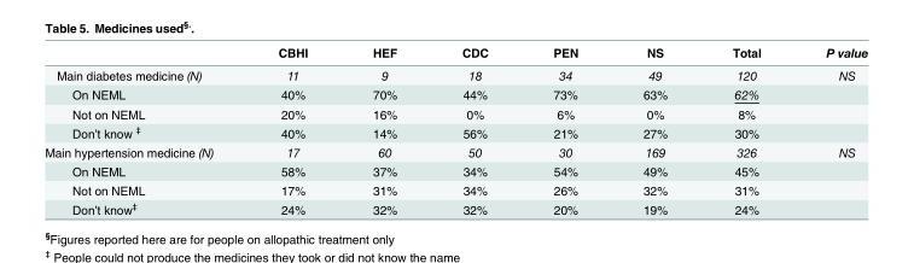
<table><thead><tr><td></td><td>CBHI</td><td>HEF</td><td>CDC</td><td>PEN</td><td>NS</td><td>Total</td><td>P value</td></tr></thead><tbody><tr><td>Main diabetes medicine (N)</td><td>11</td><td>9</td><td>18</td><td>34</td><td>49</td><td>120</td><td>NS</td></tr><tr><td>On NEML</td><td>40%</td><td>70%</td><td>44%</td><td>73%</td><td>63%</td><td>62%</td><td></td></tr><tr><td>Not on NEML</td><td>20%</td><td>16%</td><td>0%</td><td>6%</td><td>0%</td><td>8%</td><td></td></tr><tr><td>Don’t know <sup>‡</sup></td><td>40%</td><td>14%</td><td>56%</td><td>21%</td><td>27%</td><td>30%</td><td></td></tr><tr><td>Main hypertension medicine (N)</td><td>17</td><td>60</td><td>50</td><td>30</td><td>169</td><td>326</td><td>NS</td></tr><tr><td>On NEML</td><td>58%</td><td>37%</td><td>34%</td><td>54%</td><td>49%</td><td>45%</td><td></td></tr><tr><td>Not on NEML</td><td>17%</td><td>31%</td><td>34%</td><td>26%</td><td>32%</td><td>31%</td><td></td></tr><tr><td>Don’t know<sup>‡</sup></td><td>24%</td><td>32%</td><td>32%</td><td>20%</td><td>19%</td><td>24%</td><td></td></tr></tbody></table>